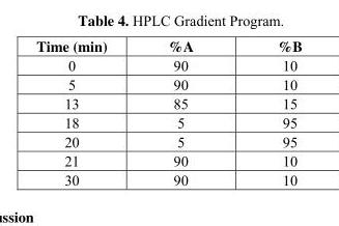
<table><thead><tr><td>Time (min)</td><td>%A</td><td>%B</td></tr></thead><tbody><tr><td>0</td><td>90</td><td>10</td></tr><tr><td>5</td><td>90</td><td>10</td></tr><tr><td>13</td><td>85</td><td>15</td></tr><tr><td>18</td><td>5</td><td>95</td></tr><tr><td>20</td><td>5</td><td>95</td></tr><tr><td>21</td><td>90</td><td>10</td></tr><tr><td>30</td><td>90</td><td>10</td></tr></tbody></table>